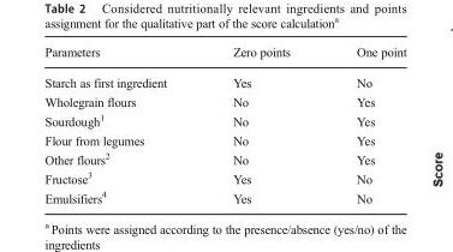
<table><thead><tr><td>Parameters</td><td>Zero points</td><td>One point</td></tr></thead><tbody><tr><td>Starch as first ingredient</td><td>Yes</td><td>No</td></tr><tr><td>Wholegrain flours</td><td>No</td><td>Yes</td></tr><tr><td>Sourdough<sup>1</sup></td><td>No</td><td>Yes</td></tr><tr><td>Flour from legumes</td><td>No</td><td>Yes</td></tr><tr><td>Other flours<sup>2</sup></td><td>No</td><td>Yes</td></tr><tr><td>Fructose<sup>3</sup></td><td>Yes</td><td>No</td></tr><tr><td>Emulsifiers<sup>4</sup></td><td>Yes</td><td>No</td></tr></tbody></table>